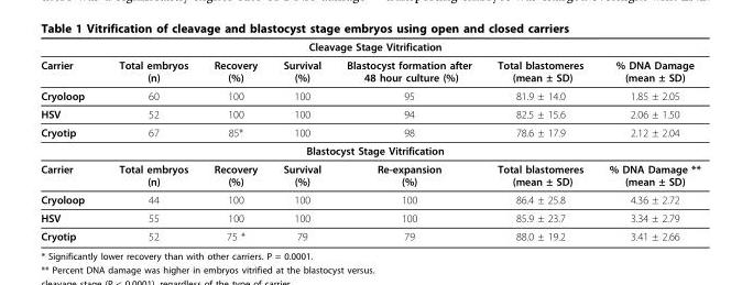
<table><thead><tr><td colspan="7">Cleavage Stage Vitrification</td></tr><tr><td>Carrier</td><td>Total embryos (n)</td><td>Recovery (%)</td><td>Survival (%)</td><td>Blastocyst formation after 48 hour culture (%)</td><td>Total blastomeres (mean ± SD)</td><td>% DNA Damage (mean ± SD)</td></tr></thead><tbody><tr><td>Cryoloop</td><td>60</td><td>100</td><td>100</td><td>95</td><td>81.9 ± 14.0</td><td>1.85 ± 2.05</td></tr><tr><td>HSV</td><td>52</td><td>100</td><td>100</td><td>94</td><td>82.5 ± 15.6</td><td>2.06 ± 1.50</td></tr><tr><td>Cryotip</td><td>67</td><td>85*</td><td>100</td><td>98</td><td>78.6 ± 17.9</td><td>2.12 ± 2.04</td></tr><tr><td colspan="7">Blastocyst Stage Vitrification</td></tr><tr><td>Carrier</td><td>Total embryos (n)</td><td>Recovery (%)</td><td>Survival (%)</td><td>Re-expansion (%)</td><td>Total blastomeres (mean ± SD)</td><td>% DNA Damage ** (mean ± SD)</td></tr><tr><td>Cryoloop</td><td>44</td><td>100</td><td>100</td><td>100</td><td>86.4 ± 25.8</td><td>4.36 ± 2.72</td></tr><tr><td>HSV</td><td>55</td><td>100</td><td>100</td><td>100</td><td>85.9 ± 23.7</td><td>3.34 ± 2.79</td></tr><tr><td>Cryotip</td><td>52</td><td>75 *</td><td>79</td><td>79</td><td>88.0 ± 19.2</td><td>3.41 ± 2.66</td></tr></tbody></table>